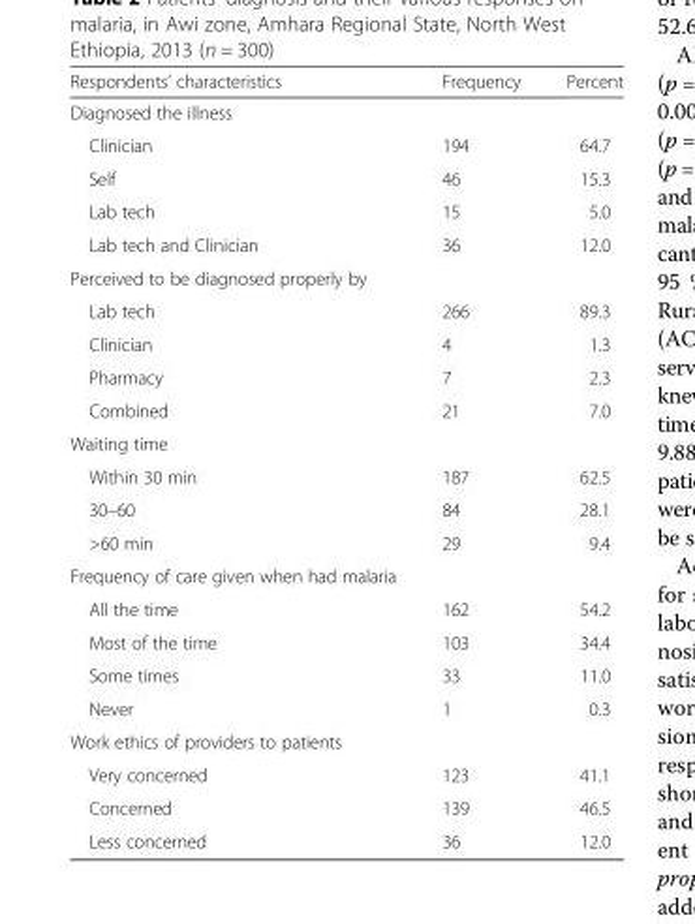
<table><thead><tr><td>Respondents’ characteristics</td><td>Frequency</td><td>Percent</td></tr></thead><tbody><tr><td colspan="3">Diagnosed the illness</td></tr><tr><td>Clinician</td><td>194</td><td>64.7</td></tr><tr><td>Self</td><td>46</td><td>15.3</td></tr><tr><td>Lab tech</td><td>15</td><td>5.0</td></tr><tr><td>Lab tech and Clinician</td><td>36</td><td>12.0</td></tr><tr><td colspan="3">Perceived to be diagnosed properly by</td></tr><tr><td>Lab tech</td><td>266</td><td>89.3</td></tr><tr><td>Clinician</td><td>4</td><td>1.3</td></tr><tr><td>Pharmacy</td><td>7</td><td>2.3</td></tr><tr><td>Combined</td><td>21</td><td>7.0</td></tr><tr><td colspan="3">Waiting time</td></tr><tr><td>Within 30 min</td><td>187</td><td>62.5</td></tr><tr><td>30–60</td><td>84</td><td>28.1</td></tr><tr><td>&gt;60 min</td><td>29</td><td>9.4</td></tr><tr><td colspan="3">Frequency of care given when had malaria</td></tr><tr><td>All the time</td><td>162</td><td>54.2</td></tr><tr><td>Most of the time</td><td>103</td><td>34.4</td></tr><tr><td>Some times</td><td>33</td><td>11.0</td></tr><tr><td>Never</td><td>1</td><td>0.3</td></tr><tr><td colspan="3">Work ethics of providers to patients</td></tr><tr><td>Very concerned</td><td>123</td><td>41.1</td></tr><tr><td>Concerned</td><td>139</td><td>46.5</td></tr><tr><td>Less concerned</td><td>36</td><td>12.0</td></tr></tbody></table>